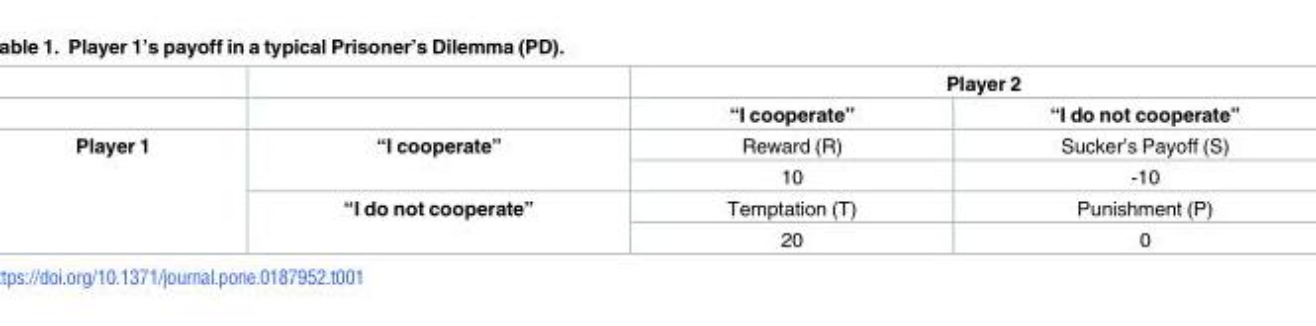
<table><thead><tr><td rowspan="2"></td><td rowspan="2"></td><td colspan="2">Player 2</td></tr><tr><td>“I cooperate”</td><td>“I do not cooperate”</td></tr></thead><tbody><tr><td rowspan="4">Player 1</td><td rowspan="2">“I cooperate”</td><td>Reward (R)</td><td>Sucker’s Payoff (S)</td></tr><tr><td>10</td><td>-10</td></tr><tr><td rowspan="2">“I do not cooperate”</td><td>Temptation (T)</td><td>Punishment (P)</td></tr><tr><td>20</td><td>0</td></tr></tbody></table>